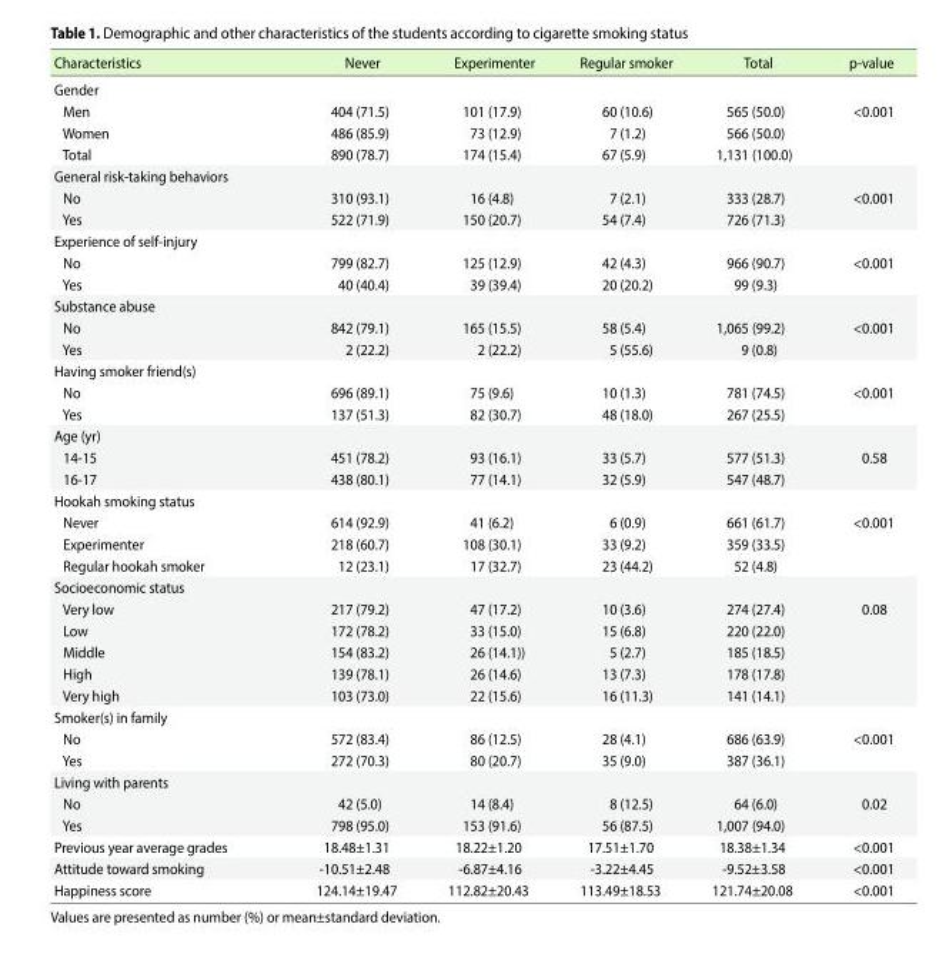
<table><thead><tr><td>Characteristics</td><td>Never</td><td>Experimenter</td><td>Regular smoker</td><td>Total</td><td>p-value</td></tr></thead><tbody><tr><td colspan="6">Gender</td></tr><tr><td>Men</td><td>404 (71.5)</td><td>101 (17.9)</td><td>60 (10.6)</td><td>565 (50.0)</td><td>&lt;0.001</td></tr><tr><td>Women</td><td>486 (85.9)</td><td>73 (12.9)</td><td>7 (1.2)</td><td>566 (50.0)</td><td></td></tr><tr><td>Total</td><td>890 (78.7)</td><td>174 (15.4)</td><td>67 (5.9)</td><td>1,131 (100.0)</td><td></td></tr><tr><td colspan="6">General risk-taking behaviors</td></tr><tr><td>No</td><td>310 (93.1)</td><td>16 (4.8)</td><td>7 (2.1)</td><td>333 (28.7)</td><td>&lt;0.001</td></tr><tr><td>Yes</td><td>522 (71.9)</td><td>150 (20.7)</td><td>54 (7.4)</td><td>726 (71.3)</td><td></td></tr><tr><td colspan="6">Experience of self-injury</td></tr><tr><td>No</td><td>799 (82.7)</td><td>125 (12.9)</td><td>42 (4.3)</td><td>966 (90.7)</td><td>&lt;0.001</td></tr><tr><td>Yes</td><td>40 (40.4)</td><td>39 (39.4)</td><td>20 (20.2)</td><td>99 (9.3)</td><td></td></tr><tr><td colspan="6">Substance abuse</td></tr><tr><td>No</td><td>842 (79.1)</td><td>165 (15.5)</td><td>58 (5.4)</td><td>1,065 (99.2)</td><td>&lt;0.001</td></tr><tr><td>Yes</td><td>2 (22.2)</td><td>2 (22.2)</td><td>5 (55.6)</td><td>9 (0.8)</td><td></td></tr><tr><td colspan="6">Having smoker friend(s)</td></tr><tr><td>No</td><td>696 (89.1)</td><td>75 (9.6)</td><td>10 (1.3)</td><td>781 (74.5)</td><td>&lt;0.001</td></tr><tr><td>Yes</td><td>137 (51.3)</td><td>82 (30.7)</td><td>48 (18.0)</td><td>267 (25.5)</td><td></td></tr><tr><td colspan="6">Age (yr)</td></tr><tr><td>14-15</td><td>451 (78.2)</td><td>93 (16.1)</td><td>33 (5.7)</td><td>577 (51.3)</td><td>0.58</td></tr><tr><td>16-17</td><td>438 (80.1)</td><td>77 (14.1)</td><td>32 (5.9)</td><td>547 (48.7)</td><td></td></tr><tr><td colspan="6">Hookah smoking status</td></tr><tr><td>Never</td><td>614 (92.9)</td><td>41 (6.2)</td><td>6 (0.9)</td><td>661 (61.7)</td><td>&lt;0.001</td></tr><tr><td>Experimenter</td><td>218 (60.7)</td><td>108 (30.1)</td><td>33 (9.2)</td><td>359 (33.5)</td><td></td></tr><tr><td>Regular hookah smoker</td><td>12 (23.1)</td><td>17 (32.7)</td><td>23 (44.2)</td><td>52 (4.8)</td><td></td></tr><tr><td colspan="6">Socioeconomic status</td></tr><tr><td>Very low</td><td>217 (79.2)</td><td>47 (17.2)</td><td>10 (3.6)</td><td>274 (27.4)</td><td>0.08</td></tr><tr><td>Low</td><td>172 (78.2)</td><td>33 (15.0)</td><td>15 (6.8)</td><td>220 (22.0)</td><td></td></tr><tr><td>Middle</td><td>154 (83.2)</td><td>26 (14.1))</td><td>5 (2.7)</td><td>185 (18.5)</td><td></td></tr><tr><td>High</td><td>139 (78.1)</td><td>26 (14.6)</td><td>13 (7.3)</td><td>178 (17.8)</td><td></td></tr><tr><td>Very high</td><td>103 (73.0)</td><td>22 (15.6)</td><td>16 (11.3)</td><td>141 (14.1)</td><td></td></tr><tr><td colspan="6">Smoker(s) in family</td></tr><tr><td>No</td><td>572 (83.4)</td><td>86 (12.5)</td><td>28 (4.1)</td><td>686 (63.9)</td><td>&lt;0.001</td></tr><tr><td>Yes</td><td>272 (70.3)</td><td>80 (20.7)</td><td>35 (9.0)</td><td>387 (36.1)</td><td></td></tr><tr><td colspan="6">Living with parents</td></tr><tr><td>No</td><td>42 (5.0)</td><td>14 (8.4)</td><td>8 (12.5)</td><td>64 (6.0)</td><td>0.02</td></tr><tr><td>Yes</td><td>798 (95.0)</td><td>153 (91.6)</td><td>56 (87.5)</td><td>1,007 (94.0)</td><td></td></tr><tr><td>Previous year average grades</td><td>18.48±1.31</td><td>18.22±1.20</td><td>17.51±1.70</td><td>18.38±1.34</td><td>&lt;0.001</td></tr><tr><td>Attitude toward smoking</td><td>-10.51±2.48</td><td>-6.87±4.16</td><td>-3.22±4.45</td><td>-9.52±3.58</td><td>&lt;0.001</td></tr><tr><td>Happiness score</td><td>124.14±19.47</td><td>112.82±20.43</td><td>113.49±18.53</td><td>121.74±20.08</td><td>&lt;0.001</td></tr></tbody></table>